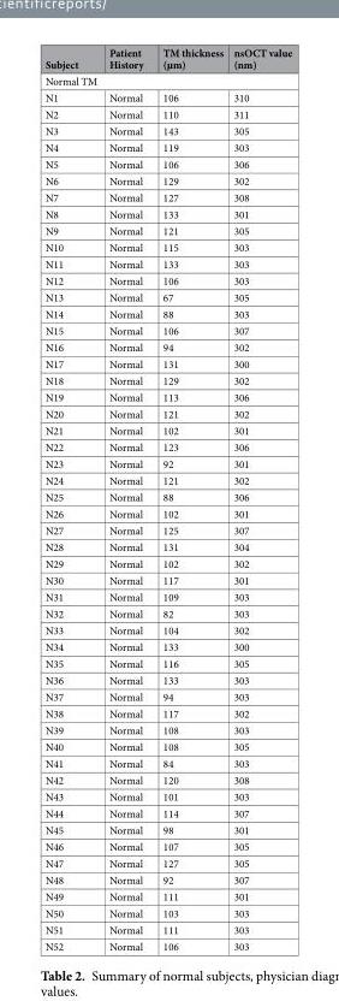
<table><thead><tr><td>Subject</td><td>Patient History</td><td>TM thickness (µm)</td><td>nsOCT value (nm)</td></tr></thead><tbody><tr><td colspan="4">Normal TM</td></tr><tr><td>N1</td><td>Normal</td><td>106</td><td>310</td></tr><tr><td>N2</td><td>Normal</td><td>110</td><td>311</td></tr><tr><td>N3</td><td>Normal</td><td>143</td><td>305</td></tr><tr><td>N4</td><td>Normal</td><td>119</td><td>303</td></tr><tr><td>N5</td><td>Normal</td><td>106</td><td>306</td></tr><tr><td>N6</td><td>Normal</td><td>129</td><td>302</td></tr><tr><td>N7</td><td>Normal</td><td>127</td><td>308</td></tr><tr><td>N8</td><td>Normal</td><td>133</td><td>301</td></tr><tr><td>N9</td><td>Normal</td><td>121</td><td>305</td></tr><tr><td>N10</td><td>Normal</td><td>115</td><td>303</td></tr><tr><td>N11</td><td>Normal</td><td>133</td><td>303</td></tr><tr><td>N12</td><td>Normal</td><td>106</td><td>303</td></tr><tr><td>N13</td><td>Normal</td><td>67</td><td>305</td></tr><tr><td>N14</td><td>Normal</td><td>88</td><td>303</td></tr><tr><td>N15</td><td>Normal</td><td>106</td><td>307</td></tr><tr><td>N16</td><td>Normal</td><td>94</td><td>302</td></tr><tr><td>N17</td><td>Normal</td><td>131</td><td>300</td></tr><tr><td>N18</td><td>Normal</td><td>129</td><td>302</td></tr><tr><td>N19</td><td>Normal</td><td>113</td><td>306</td></tr><tr><td>N20</td><td>Normal</td><td>121</td><td>302</td></tr><tr><td>N21</td><td>Normal</td><td>102</td><td>301</td></tr><tr><td>N22</td><td>Normal</td><td>123</td><td>306</td></tr><tr><td>N23</td><td>Normal</td><td>92</td><td>301</td></tr><tr><td>N24</td><td>Normal</td><td>121</td><td>302</td></tr><tr><td>N25</td><td>Normal</td><td>88</td><td>306</td></tr><tr><td>N26</td><td>Normal</td><td>102</td><td>301</td></tr><tr><td>N27</td><td>Normal</td><td>125</td><td>307</td></tr><tr><td>N28</td><td>Normal</td><td>131</td><td>304</td></tr><tr><td>N29</td><td>Normal</td><td>102</td><td>302</td></tr><tr><td>N30</td><td>Normal</td><td>117</td><td>301</td></tr><tr><td>N31</td><td>Normal</td><td>109</td><td>303</td></tr><tr><td>N32</td><td>Normal</td><td>82</td><td>303</td></tr><tr><td>N33</td><td>Normal</td><td>104</td><td>302</td></tr><tr><td>N34</td><td>Normal</td><td>133</td><td>300</td></tr><tr><td>N35</td><td>Normal</td><td>116</td><td>305</td></tr><tr><td>N36</td><td>Normal</td><td>133</td><td>303</td></tr><tr><td>N37</td><td>Normal</td><td>94</td><td>303</td></tr><tr><td>N38</td><td>Normal</td><td>117</td><td>302</td></tr><tr><td>N39</td><td>Normal</td><td>108</td><td>303</td></tr><tr><td>N40</td><td>Normal</td><td>108</td><td>305</td></tr><tr><td>N41</td><td>Normal</td><td>84</td><td>303</td></tr><tr><td>N42</td><td>Normal</td><td>120</td><td>308</td></tr><tr><td>N43</td><td>Normal</td><td>101</td><td>303</td></tr><tr><td>N44</td><td>Normal</td><td>114</td><td>307</td></tr><tr><td>N45</td><td>Normal</td><td>98</td><td>301</td></tr><tr><td>N46</td><td>Normal</td><td>107</td><td>305</td></tr><tr><td>N47</td><td>Normal</td><td>127</td><td>305</td></tr><tr><td>N48</td><td>Normal</td><td>92</td><td>307</td></tr><tr><td>N49</td><td>Normal</td><td>111</td><td>301</td></tr><tr><td>N50</td><td>Normal</td><td>103</td><td>303</td></tr><tr><td>N51</td><td>Normal</td><td>111</td><td>303</td></tr><tr><td>N52</td><td>Normal</td><td>106</td><td>303</td></tr></tbody></table>